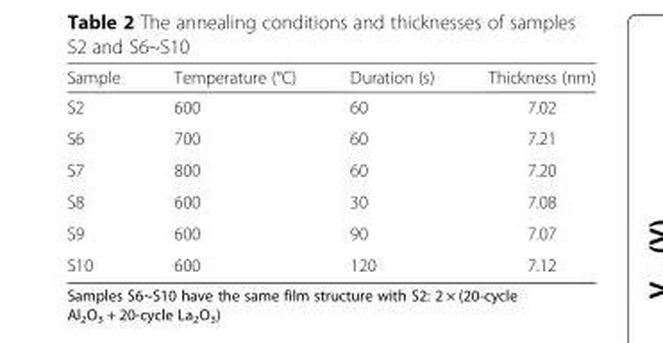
<table><thead><tr><td>Sample</td><td>Temperature (°C)</td><td>Duration (s)</td><td>Thickness (nm)</td></tr></thead><tbody><tr><td>S2</td><td>600</td><td>60</td><td>7.02</td></tr><tr><td>S6</td><td>700</td><td>60</td><td>7.21</td></tr><tr><td>S7</td><td>800</td><td>60</td><td>7.20</td></tr><tr><td>S8</td><td>600</td><td>30</td><td>7.08</td></tr><tr><td>S9</td><td>600</td><td>90</td><td>7.07</td></tr><tr><td>S10</td><td>600</td><td>120</td><td>7.12</td></tr></tbody></table>